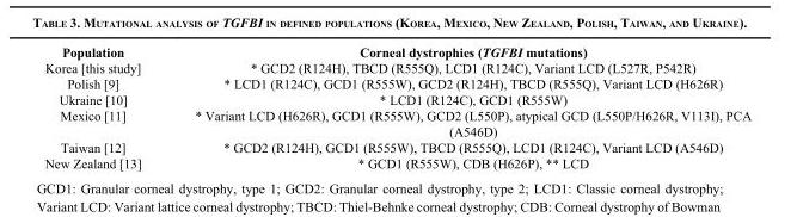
<table><thead><tr><td>Population</td><td>Corneal dystrophies (TGFBI mutations)</td></tr></thead><tbody><tr><td>Korea [this study]</td><td>* GCD2 (R124H), TBCD (R555Q), LCD1 (R124C), Variant LCD (L527R, P542R)</td></tr><tr><td>Polish [9]</td><td>* LCD1 (R124C), GCD1 (R555W), GCD2 (R124H), TBCD (R555Q), Variant LCD (H626R)</td></tr><tr><td>Ukraine [10]</td><td>* LCD1 (R124C), GCD1 (R555W)</td></tr><tr><td>Mexico [11]</td><td>* Variant LCD (H626R), GCD1 (R555W), GCD2 (L550P), atypical GCD (L550P/H626R, V113I), PCA (A546D)</td></tr><tr><td>Taiwan [12]</td><td>* GCD2 (R124H), GCD1 (R555W), TBCD (R555Q), LCD1 (R124C), Variant LCD (A546D)</td></tr><tr><td>New Zealand [13]</td><td>* GCD1 (R555W), CDB (H626P), ** LCD</td></tr></tbody></table>